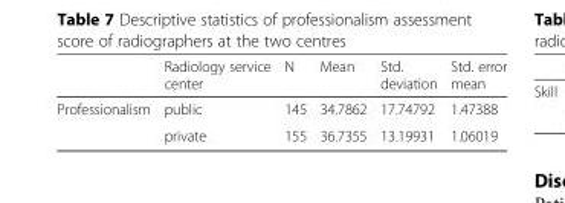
<table><thead><tr><td></td><td>Radiology service center</td><td>N</td><td>Mean</td><td>Std. deviation</td><td>Std. error mean</td></tr></thead><tbody><tr><td rowspan="2">Professionalism</td><td>public</td><td>145</td><td>34.7862</td><td>17.74792</td><td>1.47388</td></tr><tr><td>private</td><td>155</td><td>36.7355</td><td>13.19931</td><td>1.06019</td></tr></tbody></table>